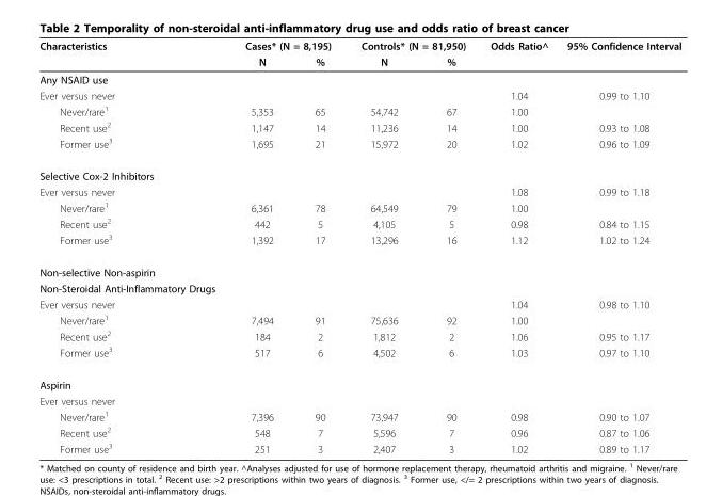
<table><thead><tr><td rowspan="2">Characteristics</td><td colspan="2">Cases* (N = 8,195)</td><td colspan="2">Controls* (N = 81,950)</td><td rowspan="2">Odds Ratio^</td><td rowspan="2">95% Confidence Interval</td></tr><tr><td>N</td><td>%</td><td>N</td><td>%</td></tr></thead><tbody><tr><td colspan="7">Any NSAID use</td></tr><tr><td>Ever versus never</td><td></td><td></td><td></td><td></td><td>1.04</td><td>0.99 to 1.10</td></tr><tr><td>Never/rare<sup>1</sup></td><td>5,353</td><td>65</td><td>54,742</td><td>67</td><td>1.00</td><td></td></tr><tr><td>Recent use<sup>2</sup></td><td>1,147</td><td>14</td><td>11,236</td><td>14</td><td>1.00</td><td>0.93 to 1.08</td></tr><tr><td>Former use<sup>3</sup></td><td>1,695</td><td>21</td><td>15,972</td><td>20</td><td>1.02</td><td>0.96 to 1.09</td></tr><tr><td colspan="7">Selective Cox-2 Inhibitors</td></tr><tr><td>Ever versus never</td><td></td><td></td><td></td><td></td><td>1.08</td><td>0.99 to 1.18</td></tr><tr><td>Never/rare<sup>1</sup></td><td>6,361</td><td>78</td><td>64,549</td><td>79</td><td>1.00</td><td></td></tr><tr><td>Recent use<sup>2</sup></td><td>442</td><td>5</td><td>4,105</td><td>5</td><td>0.98</td><td>0.84 to 1.15</td></tr><tr><td>Former use<sup>3</sup></td><td>1,392</td><td>17</td><td>13,296</td><td>16</td><td>1.12</td><td>1.02 to 1.24</td></tr><tr><td colspan="7">Non-selective Non-aspirin</td></tr><tr><td colspan="7">Non-Steroidal Anti-Inflammatory Drugs</td></tr><tr><td>Ever versus never</td><td></td><td></td><td></td><td></td><td>1.04</td><td>0.98 to 1.10</td></tr><tr><td>Never/rare<sup>1</sup></td><td>7,494</td><td>91</td><td>75,636</td><td>92</td><td>1.00</td><td></td></tr><tr><td>Recent use<sup>2</sup></td><td>184</td><td>2</td><td>1,812</td><td>2</td><td>1.06</td><td>0.95 to 1.17</td></tr><tr><td>Former use<sup>3</sup></td><td>517</td><td>6</td><td>4,502</td><td>6</td><td>1.03</td><td>0.97 to 1.10</td></tr><tr><td colspan="7">Aspirin</td></tr><tr><td colspan="7">Ever versus never</td></tr><tr><td>Never/rare<sup>1</sup></td><td>7,396</td><td>90</td><td>73,947</td><td>90</td><td>0.98</td><td>0.90 to 1.07</td></tr><tr><td>Recent use<sup>2</sup></td><td>548</td><td>7</td><td>5,596</td><td>7</td><td>0.96</td><td>0.87 to 1.06</td></tr><tr><td>Former use<sup>3</sup></td><td>251</td><td>3</td><td>2,407</td><td>3</td><td>1.02</td><td>0.89 to 1.17</td></tr></tbody></table>